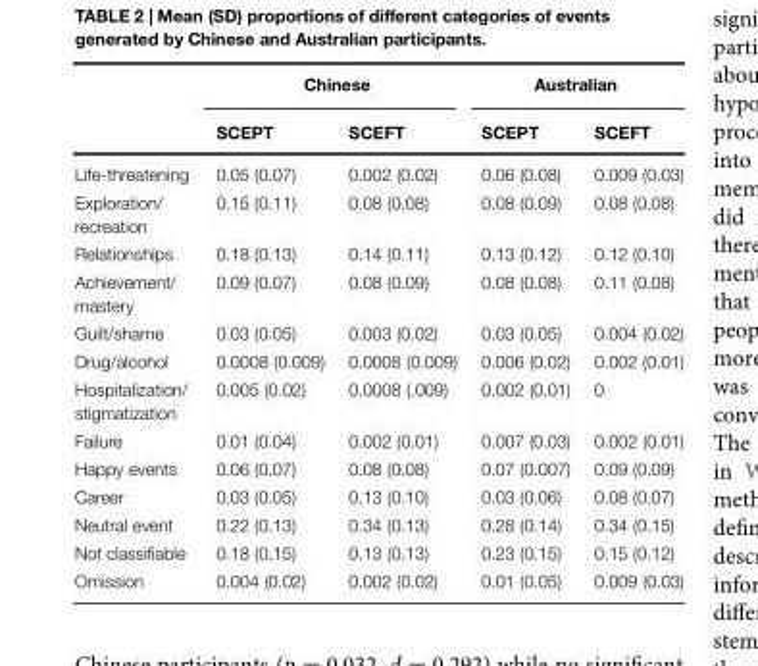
<table><thead><tr><td rowspan="2"></td><td colspan="2">Chinese</td><td colspan="2">Australian</td></tr><tr><td>SCEPT</td><td>SCEFT</td><td>SCEPT</td><td>SCEFT</td></tr></thead><tbody><tr><td>Life-threatening</td><td>0.05 (0.07)</td><td>0.002 (0.02)</td><td>0.06 (0.08)</td><td>0.009 (0.03)</td></tr><tr><td>Exploration/ recreation</td><td>0.15 (0.11)</td><td>0.08 (0.08)</td><td>0.08 (0.09)</td><td>0.08 (0.08)</td></tr><tr><td>Relationships</td><td>0.18 (0.13)</td><td>0.14 (0.11)</td><td>0.13 (0.12)</td><td>0.12 (0.10)</td></tr><tr><td>Achievement/ mastery</td><td>0.09 (0.07)</td><td>0.08 (0.09)</td><td>0.08 (0.08)</td><td>0.11 (0.08)</td></tr><tr><td>Guilt/shame</td><td>0.03 (0.05)</td><td>0.003 (0.02)</td><td>0.03 (0.05)</td><td>0.004 (0.02)</td></tr><tr><td>Drug/alcohol</td><td>0.0008 (0.009)</td><td>0.0008 (0.009)</td><td>0.006 (0.02)</td><td>0.002 (0.01)</td></tr><tr><td>Hospitalization/ stigmatization</td><td>0.005 (0.02)</td><td>0.0008 (.009)</td><td>0.002 (0.01)</td><td>0</td></tr><tr><td>Failure</td><td>0.01 (0.04)</td><td>0.002 (0.01)</td><td>0.007 (0.03)</td><td>0.002 (0.01)</td></tr><tr><td>Happy events</td><td>0.06 (0.07)</td><td>0.08 (0.08)</td><td>0.07 (0.007)</td><td>0.09 (0.09)</td></tr><tr><td>Career</td><td>0.03 (0.05)</td><td>0.13 (0.10)</td><td>0.03 (0.06)</td><td>0.08 (0.07)</td></tr><tr><td>Neutral event</td><td>0.22 (0.13)</td><td>0.34 (0.13)</td><td>0.28 (0.14)</td><td>0.34 (0.15)</td></tr><tr><td>Not classifiable</td><td>0.18 (0.15)</td><td>0.13 (0.13)</td><td>0.23 (0.15)</td><td>0.15 (0.12)</td></tr><tr><td>Omission</td><td>0.004 (0.02)</td><td>0.002 (0.02)</td><td>0.01 (0.05)</td><td>0.009 (0.03)</td></tr></tbody></table>